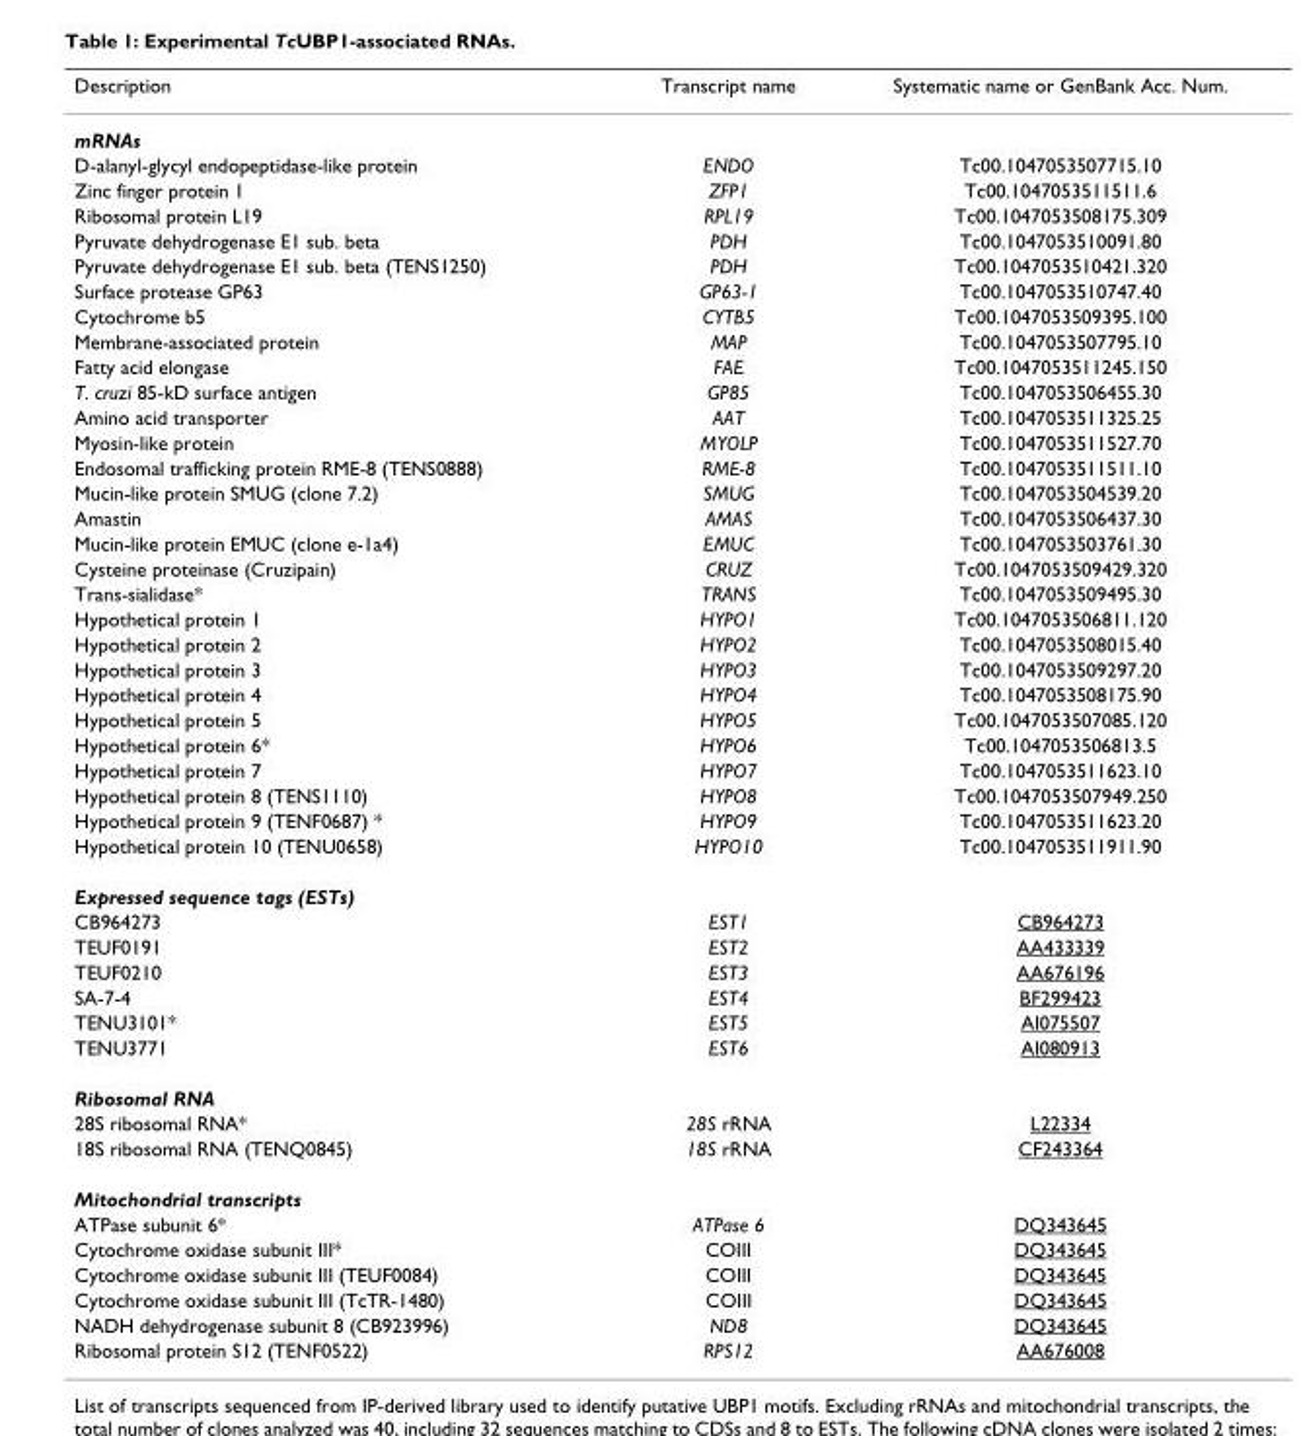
<table><thead><tr><td>Description</td><td>Transcript name</td><td>Systematic name or GenBank Acc. Num.</td></tr></thead><tbody><tr><td colspan="3">mRNAs</td></tr><tr><td>D-alanyl-glycyl endopeptidase-like protein</td><td>ENDO</td><td>Tc00.1047053507715.10</td></tr><tr><td>Zinc finger protein 1</td><td>ZFP1</td><td>Tc00.1047053511511.6</td></tr><tr><td>Ribosomal protein L19</td><td>RPL19</td><td>Tc00.1047053508175.309</td></tr><tr><td>Pyruvate dehydrogenase E1 sub. beta</td><td>PDH</td><td>Tc00.1047053510091.80</td></tr><tr><td>Pyruvate dehydrogenase E1 sub. beta (TENS1250)</td><td>PDH</td><td>Tc00.1047053510421.320</td></tr><tr><td>Surface protease GP63</td><td>GP63-1</td><td>Tc00.1047053510747.40</td></tr><tr><td>Cytochrome b5</td><td>CYTB5</td><td>Tc00.1047053509395.100</td></tr><tr><td>Membrane-associated protein</td><td>MAP</td><td>Tc00.1047053507795.10</td></tr><tr><td>Fatty acid elongase</td><td>FAE</td><td>Tc00.1047053511245.150</td></tr><tr><td>T. cruzi 85-kD surface antigen</td><td>GP85</td><td>Tc00.1047053506455.30</td></tr><tr><td>Amino acid transporter</td><td>AAT</td><td>Tc00.1047053511325.25</td></tr><tr><td>Myosin-like protein</td><td>MYOLP</td><td>Tc00.1047053511527.70</td></tr><tr><td>Endosomal trafficking protein RME-8 (TENS0888)</td><td>RME-8</td><td>Tc00.1047053511511.10</td></tr><tr><td>Mucin-like protein SMUG (clone 7.2)</td><td>SMUG</td><td>Tc00.1047053504539.20</td></tr><tr><td>Amastin</td><td>AMAS</td><td>Tc00.1047053506437.30</td></tr><tr><td>Mucin-like protein EMUC (clone e-1a4)</td><td>EMUC</td><td>Tc00.1047053503761.30</td></tr><tr><td>Cysteine proteinase (Cruzipain)</td><td>CRUZ</td><td>Tc00.1047053509429.320</td></tr><tr><td>Trans-sialidase*</td><td>TRANS</td><td>Tc00.1047053509495.30</td></tr><tr><td>Hypothetical protein 1</td><td>HYPO1</td><td>Tc00.1047053506811.120</td></tr><tr><td>Hypothetical protein 2</td><td>HYPO2</td><td>Tc00.1047053508015.40</td></tr><tr><td>Hypothetical protein 3</td><td>HYPO3</td><td>Tc00.1047053509297.20</td></tr><tr><td>Hypothetical protein 4</td><td>HYPO4</td><td>Tc00.1047053508175.90</td></tr><tr><td>Hypothetical protein 5</td><td>HYPO5</td><td>Tc00.1047053507085.120</td></tr><tr><td>Hypothetical protein 6*</td><td>HYPO6</td><td>Tc00.1047053506813.5</td></tr><tr><td>Hypothetical protein 7</td><td>HYPO7</td><td>Tc00.1047053511623.10</td></tr><tr><td>Hypothetical protein 8 (TENS1110)</td><td>HYPO8</td><td>Tc00.1047053507949.250</td></tr><tr><td>Hypothetical protein 9 (TENF0687) *</td><td>HYPO9</td><td>Tc00.1047053511623.20</td></tr><tr><td>Hypothetical protein 10 (TENU0658)</td><td>HYPO10</td><td>Tc00.1047053511911.90</td></tr><tr><td colspan="3">Expressed sequence tags (ESTs)</td></tr><tr><td>CB964273</td><td>EST1</td><td>CB964273</td></tr><tr><td>TEUF0191</td><td>EST2</td><td>AA433339</td></tr><tr><td>TEUF0210</td><td>EST3</td><td>AA676196</td></tr><tr><td>SA-7-4</td><td>EST4</td><td>BF299423</td></tr><tr><td>TENU3101*</td><td>EST5</td><td>AI075507</td></tr><tr><td>TENU3771</td><td>EST6</td><td>AI080913</td></tr><tr><td colspan="3">Ribosomal RNA</td></tr><tr><td>28S ribosomal RNA*</td><td>28S rRNA</td><td>L22334</td></tr><tr><td>18S ribosomal RNA (TENQ0845)</td><td>18S rRNA</td><td>CF243364</td></tr><tr><td colspan="3">Mitochondrial transcripts</td></tr><tr><td>ATPase subunit 6*</td><td>ATPase 6</td><td>DQ343645</td></tr><tr><td>Cytochrome oxidase subunit III*</td><td>COIII</td><td>DQ343645</td></tr><tr><td>Cytochrome oxidase subunit III (TEUF0084)</td><td>COIII</td><td>DQ343645</td></tr><tr><td>Cytochrome oxidase subunit III (TcTR-1480)</td><td>COIII</td><td>DQ343645</td></tr><tr><td>NADH dehydrogenase subunit 8 (CB923996)</td><td>ND8</td><td>DQ343645</td></tr><tr><td>Ribosomal protein S12 (TENF0522)</td><td>RPS12</td><td>AA676008</td></tr></tbody></table>